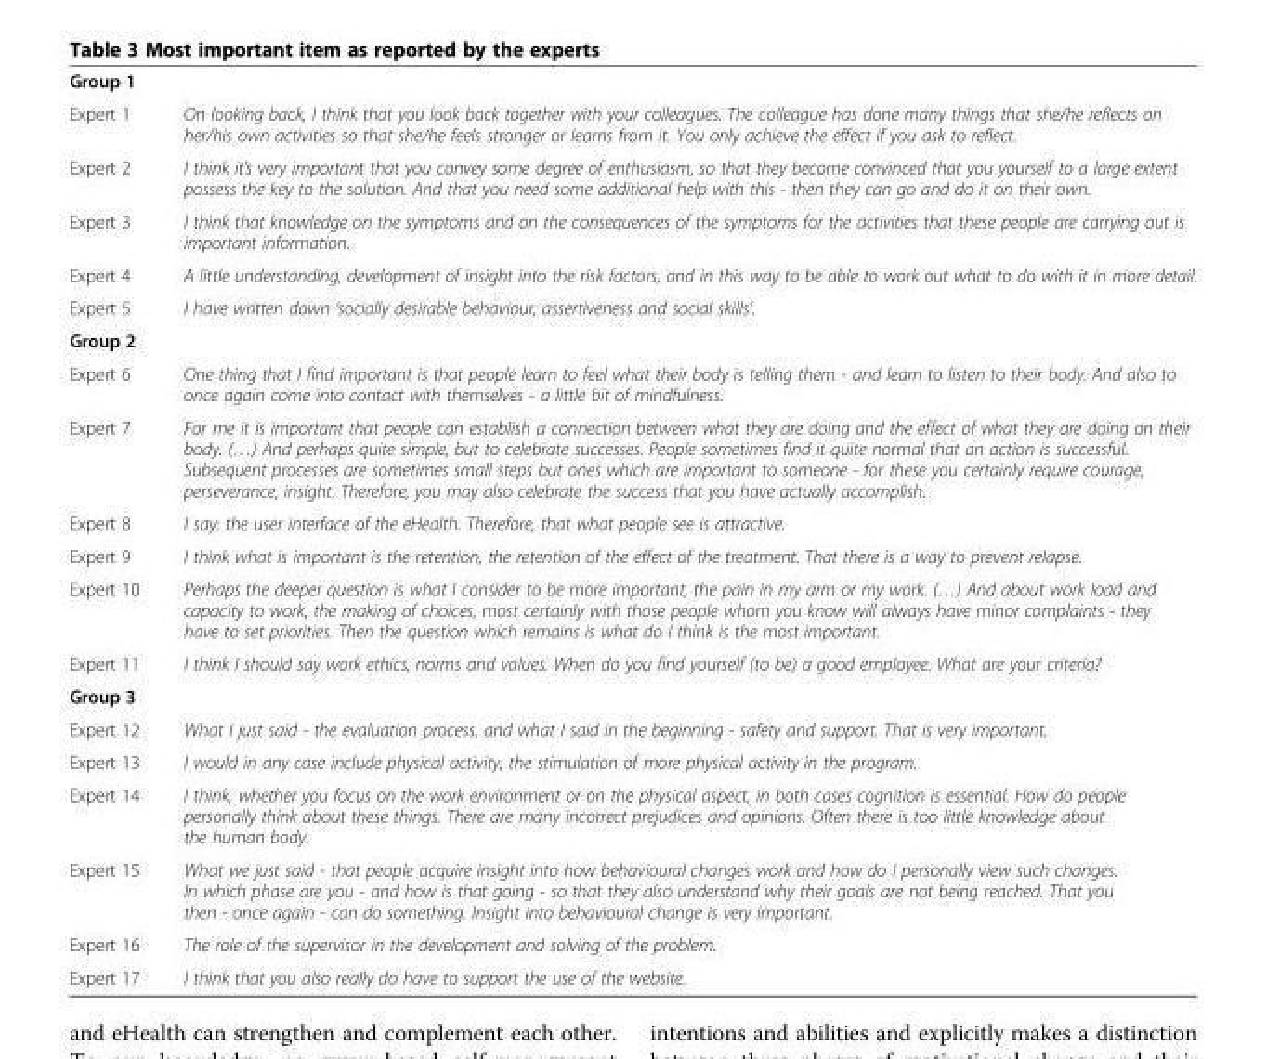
<table><tbody><tr><td colspan="2">Group 1</td></tr><tr><td>Expert 1</td><td>On looking back, I think that you look back together with your colleagues. The colleague has done many things that she/he reflects on her/his own activities so that she/he feels stronger or learns from it. You only achieve the effect if you ask to reflect.</td></tr><tr><td>Expert 2</td><td>I think it’s very important that you convey some degree of enthusiasm, so that they become convinced that you yourself to a large extent possess the key to the solution. And that you need some additional help with this - then they can go and do it on their own.</td></tr><tr><td>Expert 3</td><td>I think that knowledge on the symptoms and on the consequences of the symptoms for the activities that these people are carrying out is important information.</td></tr><tr><td>Expert 4</td><td>A little understanding, development of insight into the risk factors, and in this way to be able to work out what to do with it in more detail.</td></tr><tr><td>Expert 5</td><td>I have written down ‘socially desirable behaviour, assertiveness and social skills’.</td></tr><tr><td colspan="2">Group 2</td></tr><tr><td>Expert 6</td><td>One thing that I find important is that people learn to feel what their body is telling them - and learn to listen to their body. And also to once again come into contact with themselves - a little bit of mindfulness.</td></tr><tr><td>Expert 7</td><td>For me it is important that people can establish a connection between what they are doing and the effect of what they are doing on their body. (…) And perhaps quite simple, but to celebrate successes. People sometimes find it quite normal that an action is successful. Subsequent processes are sometimes small steps but ones which are important to someone - for these you certainly require courage, perseverance, insight. Therefore, you may also celebrate the success that you have actually accomplish.</td></tr><tr><td>Expert 8</td><td>I say: the user interface of the eHealth. Therefore, that what people see is attractive.</td></tr><tr><td>Expert 9</td><td>I think what is important is the retention, the retention of the effect of the treatment. That there is a way to prevent relapse.</td></tr><tr><td>Expert 10</td><td>Perhaps the deeper question is what I consider to be more important, the pain in my arm or my work. (…) And about work load and capacity to work, the making of choices, most certainly with those people whom you know will always have minor complaints - they have to set priorities. Then the question which remains is what do I think is the most important.</td></tr><tr><td>Expert 11</td><td>I think I should say work ethics, norms and values. When do you find yourself (to be) a good employee. What are your criteria?</td></tr><tr><td colspan="2">Group 3</td></tr><tr><td>Expert 12</td><td>What I just said - the evaluation process, and what I said in the beginning - safety and support. That is very important.</td></tr><tr><td>Expert 13</td><td>I would in any case include physical activity, the stimulation of more physical activity in the program.</td></tr><tr><td>Expert 14</td><td>I think, whether you focus on the work environment or on the physical aspect, in both cases cognition is essential. How do people personally think about these things. There are many incorrect prejudices and opinions. Often there is too little knowledge about the human body.</td></tr><tr><td>Expert 15</td><td>What we just said - that people acquire insight into how behavioural changes work and how do I personally view such changes. In which phase are you - and how is that going - so that they also understand why their goals are not being reached. That you then - once again - can do something. Insight into behavioural change is very important.</td></tr><tr><td>Expert 16</td><td>The role of the supervisor in the development and solving of the problem.</td></tr><tr><td>Expert 17</td><td>I think that you also really do have to support the use of the website.</td></tr></tbody></table>